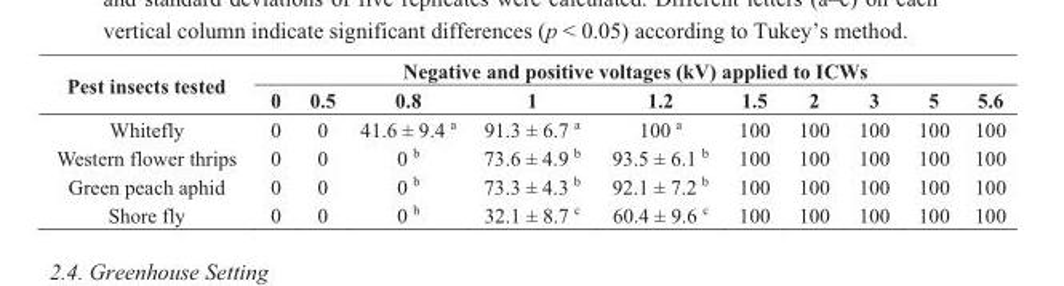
<table><thead><tr><td rowspan="2">Pest insects tested</td><td colspan="10">Negative and positive voltages (kV) applied to ICWs</td></tr><tr><td>0</td><td>0.5</td><td>0.8</td><td>1</td><td>1.2</td><td>1.5</td><td>2</td><td>3</td><td>5</td><td>5.6</td></tr></thead><tbody><tr><td>Whitefly</td><td>0</td><td>0</td><td>41.6 ± 9.4 <sup>a</sup></td><td>91.3 ± 6.7 <sup>a</sup></td><td>100 <sup>a</sup></td><td>100</td><td>100</td><td>100</td><td>100</td><td>100</td></tr><tr><td>Western flower thrips</td><td>0</td><td>0</td><td>0 <sup>b</sup></td><td>73.6 ± 4.9 <sup>b</sup></td><td>93.5 ± 6.1 <sup>b</sup></td><td>100</td><td>100</td><td>100</td><td>100</td><td>100</td></tr><tr><td>Green peach aphid</td><td>0</td><td>0</td><td>0 <sup>b</sup></td><td>73.3 ± 4.3 <sup>b</sup></td><td>92.1 ± 7.2 <sup>b</sup></td><td>100</td><td>100</td><td>100</td><td>100</td><td>100</td></tr><tr><td>Shore fly</td><td>0</td><td>0</td><td>0 <sup>b</sup></td><td>32.1 ± 8.7 <sup>c</sup></td><td>60.4 ± 9.6 <sup>c</sup></td><td>100</td><td>100</td><td>100</td><td>100</td><td>100</td></tr></tbody></table>